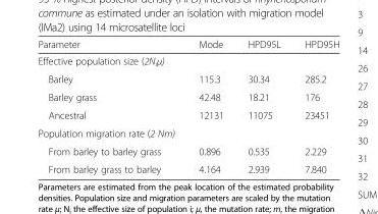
<table><thead><tr><td>Parameter</td><td>Mode</td><td>HPD95L</td><td>HPD95H</td></tr></thead><tbody><tr><td colspan="4">Effective population size (2N<sub>i</sub>μ)</td></tr><tr><td>Barley</td><td>115.3</td><td>30.34</td><td>285.2</td></tr><tr><td>Barley grass</td><td>42.48</td><td>18.21</td><td>176</td></tr><tr><td>Ancestral</td><td>12131</td><td>11075</td><td>23451</td></tr><tr><td colspan="4">Population migration rate (2 Nm)</td></tr><tr><td>From barley to barley grass</td><td>0.896</td><td>0.535</td><td>2.229</td></tr><tr><td>From barley grass to barley</td><td>4.164</td><td>2.939</td><td>7.840</td></tr></tbody></table>